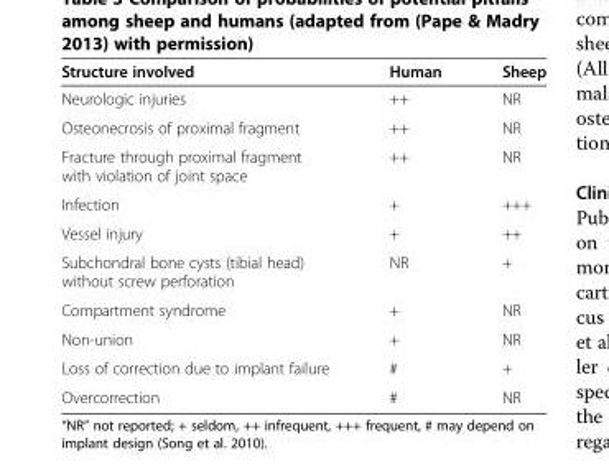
<table><thead><tr><td>Structure involved</td><td>Human</td><td>Sheep</td></tr></thead><tbody><tr><td>Neurologic injuries</td><td>++</td><td>NR</td></tr><tr><td>Osteonecrosis of proximal fragment</td><td>++</td><td>NR</td></tr><tr><td>Fracture through proximal fragment with violation of joint space</td><td>++</td><td>NR</td></tr><tr><td>Infection</td><td>+</td><td>+++</td></tr><tr><td>Vessel injury</td><td>+</td><td>++</td></tr><tr><td>Subchondral bone cysts (tibial head) without screw perforation</td><td>NR</td><td>+</td></tr><tr><td>Compartment syndrome</td><td>+</td><td>NR</td></tr><tr><td>Non-union</td><td>+</td><td>NR</td></tr><tr><td>Loss of correction due to implant failure</td><td>#</td><td>+</td></tr><tr><td>Overcorrection</td><td>#</td><td>NR</td></tr></tbody></table>